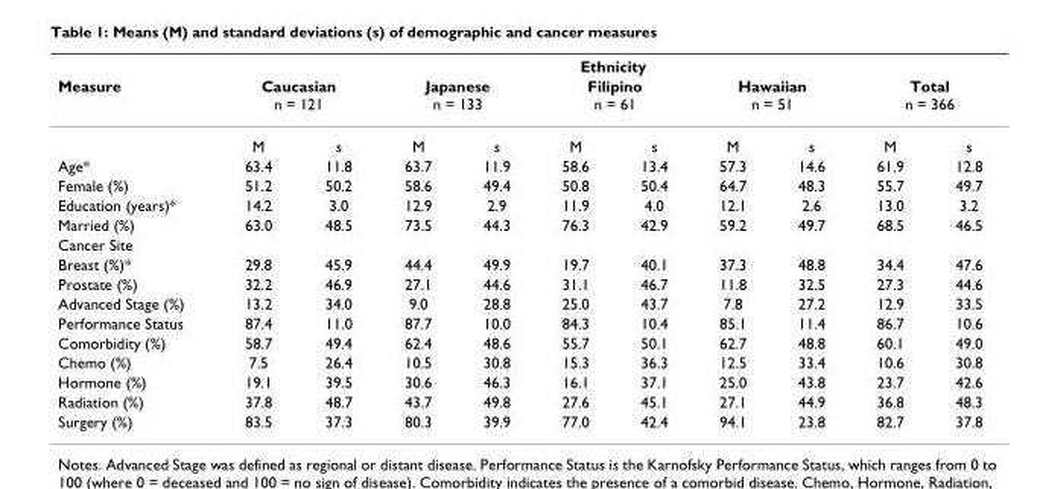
<table><thead><tr><td rowspan="3">Measure</td><td colspan="10">Ethnicity</td></tr><tr><td colspan="2">Caucasian n = 121</td><td colspan="2">Japanese n = 133</td><td colspan="2">Filipino n = 61</td><td colspan="2">Hawaiian n = 51</td><td colspan="2">Total n = 366</td></tr><tr><td>M</td><td>s</td><td>M</td><td>s</td><td>M</td><td>s</td><td>M</td><td>s</td><td>M</td><td>s</td></tr></thead><tbody><tr><td>Age*</td><td>63.4</td><td>11.8</td><td>63.7</td><td>11.9</td><td>58.6</td><td>13.4</td><td>57.3</td><td>14.6</td><td>61.9</td><td>12.8</td></tr><tr><td>Female (%)</td><td>51.2</td><td>50.2</td><td>58.6</td><td>49.4</td><td>50.8</td><td>50.4</td><td>64.7</td><td>48.3</td><td>55.7</td><td>49.7</td></tr><tr><td>Education (years)*</td><td>14.2</td><td>3.0</td><td>12.9</td><td>2.9</td><td>11.9</td><td>4.0</td><td>12.1</td><td>2.6</td><td>13.0</td><td>3.2</td></tr><tr><td>Married (%)</td><td>63.0</td><td>48.5</td><td>73.5</td><td>44.3</td><td>76.3</td><td>42.9</td><td>59.2</td><td>49.7</td><td>68.5</td><td>46.5</td></tr><tr><td colspan="11">Cancer Site</td></tr><tr><td>Breast (%)*</td><td>29.8</td><td>45.9</td><td>44.4</td><td>49.9</td><td>19.7</td><td>40.1</td><td>37.3</td><td>48.8</td><td>34.4</td><td>47.6</td></tr><tr><td>Prostate (%)</td><td>32.2</td><td>46.9</td><td>27.1</td><td>44.6</td><td>31.1</td><td>46.7</td><td>11.8</td><td>32.5</td><td>27.3</td><td>44.6</td></tr><tr><td>Advanced Stage (%)</td><td>13.2</td><td>34.0</td><td>9.0</td><td>28.8</td><td>25.0</td><td>43.7</td><td>7.8</td><td>27.2</td><td>12.9</td><td>33.5</td></tr><tr><td>Performance Status</td><td>87.4</td><td>11.0</td><td>87.7</td><td>10.0</td><td>84.3</td><td>10.4</td><td>85.1</td><td>11.4</td><td>86.7</td><td>10.6</td></tr><tr><td>Comorbidity (%)</td><td>58.7</td><td>49.4</td><td>62.4</td><td>48.6</td><td>55.7</td><td>50.1</td><td>62.7</td><td>48.8</td><td>60.1</td><td>49.0</td></tr><tr><td>Chemo (%)</td><td>7.5</td><td>26.4</td><td>10.5</td><td>30.8</td><td>15.3</td><td>36.3</td><td>12.5</td><td>33.4</td><td>10.6</td><td>30.8</td></tr><tr><td>Hormone (%)</td><td>19.1</td><td>39.5</td><td>30.6</td><td>46.3</td><td>16.1</td><td>37.1</td><td>25.0</td><td>43.8</td><td>23.7</td><td>42.6</td></tr><tr><td>Radiation (%)</td><td>37.8</td><td>48.7</td><td>43.7</td><td>49.8</td><td>27.6</td><td>45.1</td><td>27.1</td><td>44.9</td><td>36.8</td><td>48.3</td></tr><tr><td>Surgery (%)</td><td>83.5</td><td>37.3</td><td>80.3</td><td>39.9</td><td>77.0</td><td>42.4</td><td>94.1</td><td>23.8</td><td>82.7</td><td>37.8</td></tr></tbody></table>